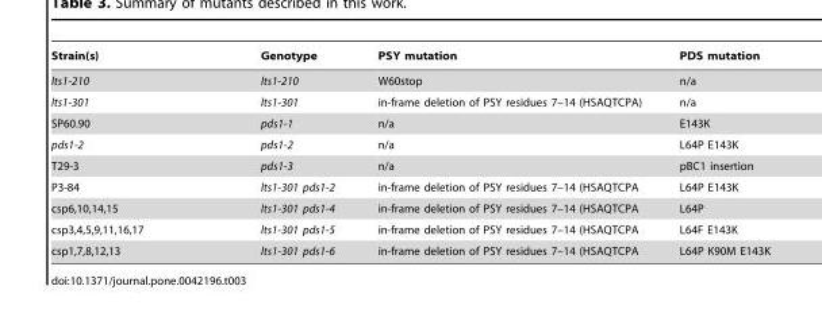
<table><thead><tr><td>Strain(s)</td><td>Genotype</td><td>PSY mutation</td><td>PDS mutation</td></tr></thead><tbody><tr><td>lts1-210</td><td>lts1-210</td><td>W60stop</td><td>n/a</td></tr><tr><td>lts1-301</td><td>lts1-301</td><td>in-frame deletion of PSY residues 7–14 (HSAQTCPA)</td><td>n/a</td></tr><tr><td>SP60.90</td><td>pds1-1</td><td>n/a</td><td>E143K</td></tr><tr><td>pds1-2</td><td>pds1-2</td><td>n/a</td><td>L64P E143K</td></tr><tr><td>T29-3</td><td>pds1-3</td><td>n/a</td><td>pBC1 insertion</td></tr><tr><td>P3-84</td><td>lts1-301 pds1-2</td><td>in-frame deletion of PSY residues 7–14 (HSAQTCPA</td><td>L64P E143K</td></tr><tr><td>csp6,10,14,15</td><td>lts1-301 pds1-4</td><td>in-frame deletion of PSY residues 7–14 (HSAQTCPA</td><td>L64P</td></tr><tr><td>csp3,4,5,9,11,16,17</td><td>lts1-301 pds1-5</td><td>in-frame deletion of PSY residues 7–14 (HSAQTCPA</td><td>L64F E143K</td></tr><tr><td>csp1,7,8,12,13</td><td>lts1-301 pds1-6</td><td>in-frame deletion of PSY residues 7–14 (HSAQTCPA</td><td>L64P K90M E143K</td></tr></tbody></table>